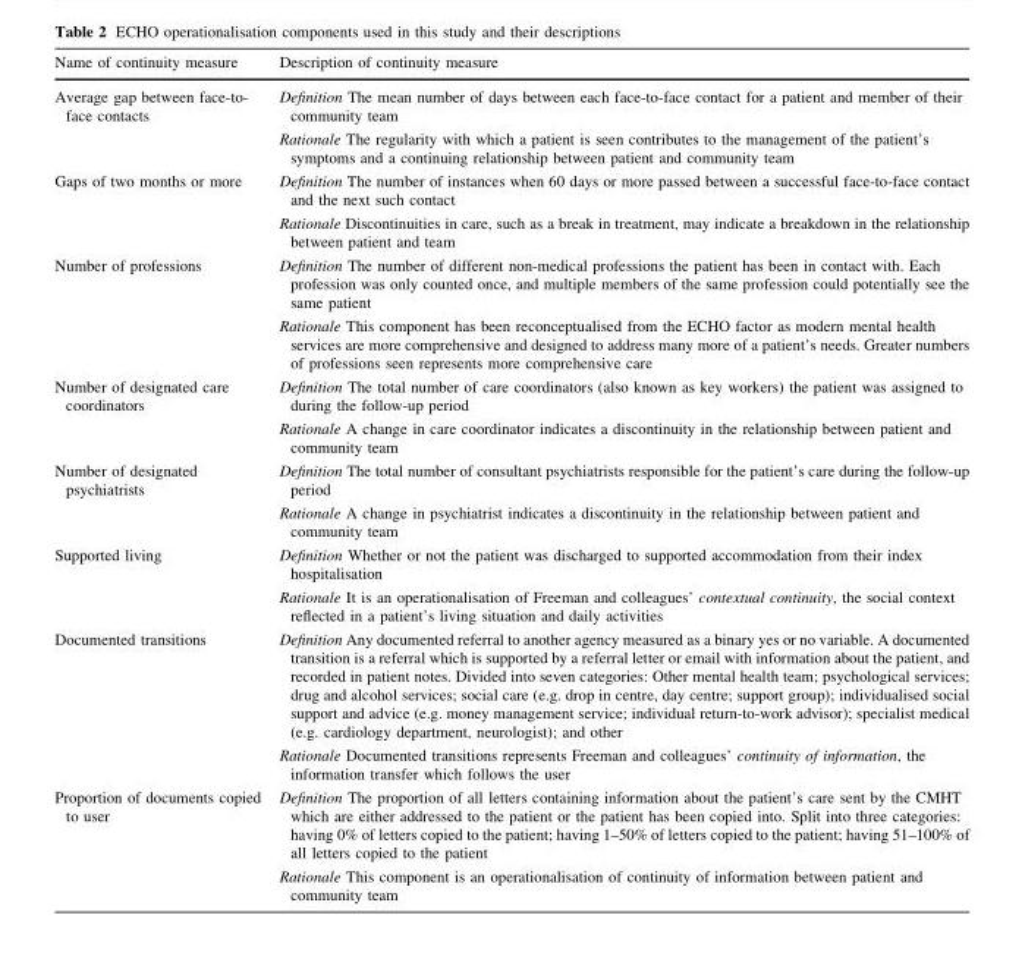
<table><thead><tr><td>Name of continuity measure</td><td>Description of continuity measure</td></tr></thead><tbody><tr><td>Average gap between face-to- face contacts</td><td>Definition The mean number of days between each face-to-face contact for a patient and member of their community team Rationale The regularity with which a patient is seen contributes to the management of the patient’s symptoms and a continuing relationship between patient and community team</td></tr><tr><td>Gaps of two months or more</td><td>Definition The number of instances when 60 days or more passed between a successful face-to-face contact and the next such contact Rationale Discontinuities in care, such as a break in treatment, may indicate a breakdown in the relationship between patient and team</td></tr><tr><td>Number of professions</td><td>Definition The number of different non-medical professions the patient has been in contact with. Each profession was only counted once, and multiple members of the same profession could potentially see the same patient Rationale This component has been reconceptualised from the ECHO factor as modern mental health services are more comprehensive and designed to address many more of a patient’s needs. Greater numbers of professions seen represents more comprehensive care</td></tr><tr><td>Number of designated care coordinators</td><td>Definition The total number of care coordinators (also known as key workers) the patient was assigned to during the follow-up period Rationale A change in care coordinator indicates a discontinuity in the relationship between patient and community team</td></tr><tr><td>Number of designated psychiatrists</td><td>Definition The total number of consultant psychiatrists responsible for the patient’s care during the follow-up period Rationale A change in psychiatrist indicates a discontinuity in the relationship between patient and community team</td></tr><tr><td>Supported living</td><td>Definition Whether or not the patient was discharged to supported accommodation from their index hospitalisation Rationale It is an operationalisation of Freeman and colleagues’ contextual continuity, the social context reflected in a patient’s living situation and daily activities</td></tr><tr><td>Documented transitions</td><td>Definition Any documented referral to another agency measured as a binary yes or no variable. A documented transition is a referral which is supported by a referral letter or email with information about the patient, and recorded in patient notes. Divided into seven categories: Other mental health team; psychological services; drug and alcohol services; social care (e.g. drop in centre, day centre; support group); individualised social support and advice (e.g. money management service; individual return-to-work advisor); specialist medical (e.g. cardiology department, neurologist); and other Rationale Documented transitions represents Freeman and colleagues’ continuity of information, the information transfer which follows the user</td></tr><tr><td>Proportion of documents copied to user</td><td>Definition The proportion of all letters containing information about the patient’s care sent by the CMHT which are either addressed to the patient or the patient has been copied into. Split into three categories: having 0% of letters copied to the patient; having 1–50% of letters copied to the patient; having 51–100% of all letters copied to the patient Rationale This component is an operationalisation of continuity of information between patient and community team</td></tr></tbody></table>